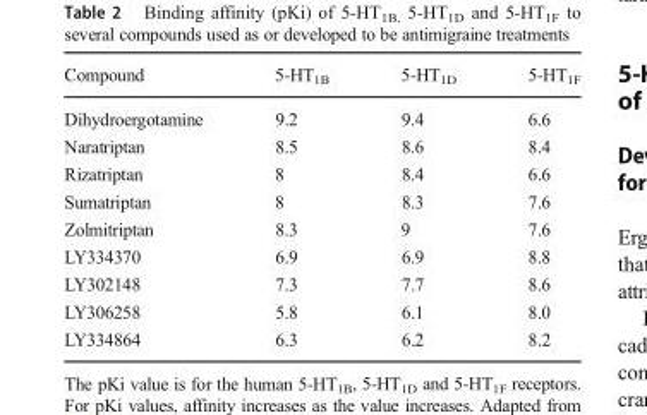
<table><thead><tr><td>Compound</td><td>5-HT<sub>1B</sub></td><td>5-HT<sub>1D</sub></td><td>5-HT<sub>1F</sub></td></tr></thead><tbody><tr><td>Dihydroergotamine</td><td>9.2</td><td>9.4</td><td>6.6</td></tr><tr><td>Naratriptan</td><td>8.5</td><td>8.6</td><td>8.4</td></tr><tr><td>Rizatriptan</td><td>8</td><td>8.4</td><td>6.6</td></tr><tr><td>Sumatriptan</td><td>8</td><td>8.3</td><td>7.6</td></tr><tr><td>Zolmitriptan</td><td>8.3</td><td>9</td><td>7.6</td></tr><tr><td>LY334370</td><td>6.9</td><td>6.9</td><td>8.8</td></tr><tr><td>LY302148</td><td>7.3</td><td>7.7</td><td>8.6</td></tr><tr><td>LY306258</td><td>5.8</td><td>6.1</td><td>8.0</td></tr><tr><td>LY334864</td><td>6.3</td><td>6.2</td><td>8.2</td></tr></tbody></table>